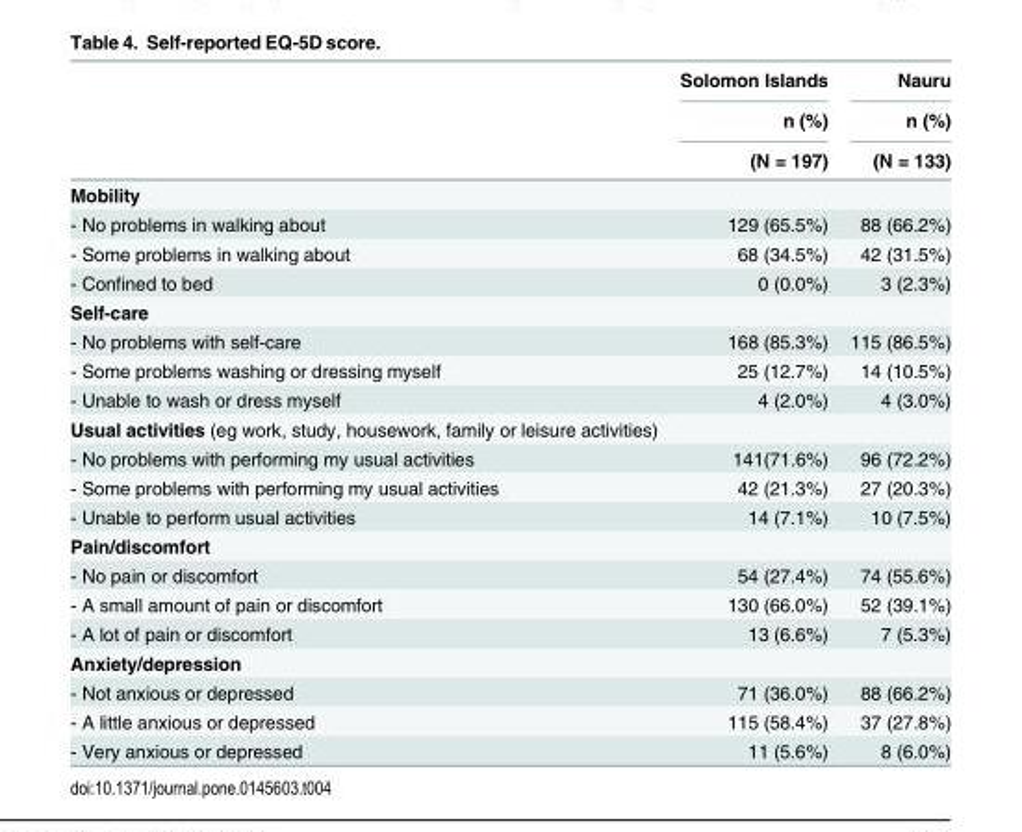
<table><thead><tr><td rowspan="3"></td><td rowspan="3">Solomon Islands n (%) (N = 197)</td><td rowspan="3">Nauru n (%) (N = 133)</td></tr><tr></tr><tr></tr></thead><tbody><tr><td colspan="3">Mobility</td></tr><tr><td>- No problems in walking about</td><td>129 (65.5%)</td><td>88 (66.2%)</td></tr><tr><td>- Some problems in walking about</td><td>68 (34.5%)</td><td>42 (31.5%)</td></tr><tr><td>- Confined to bed</td><td>0 (0.0%)</td><td>3 (2.3%)</td></tr><tr><td colspan="3">Self-care</td></tr><tr><td>- No problems with self-care</td><td>168 (85.3%)</td><td>115 (86.5%)</td></tr><tr><td>- Some problems washing or dressing myself</td><td>25 (12.7%)</td><td>14 (10.5%)</td></tr><tr><td>- Unable to wash or dress myself</td><td>4 (2.0%)</td><td>4 (3.0%)</td></tr><tr><td colspan="3">Usual activities (eg work, study, housework, family or leisure activities)</td></tr><tr><td>- No problems with performing my usual activities</td><td>141(71.6%)</td><td>96 (72.2%)</td></tr><tr><td>- Some problems with performing my usual activities</td><td>42 (21.3%)</td><td>27 (20.3%)</td></tr><tr><td>- Unable to perform usual activities</td><td>14 (7.1%)</td><td>10 (7.5%)</td></tr><tr><td colspan="3">Pain/discomfort</td></tr><tr><td>- No pain or discomfort</td><td>54 (27.4%)</td><td>74 (55.6%)</td></tr><tr><td>- A small amount of pain or discomfort</td><td>130 (66.0%)</td><td>52 (39.1%)</td></tr><tr><td>- A lot of pain or discomfort</td><td>13 (6.6%)</td><td>7 (5.3%)</td></tr><tr><td colspan="3">Anxiety/depression</td></tr><tr><td>- Not anxious or depressed</td><td>71 (36.0%)</td><td>88 (66.2%)</td></tr><tr><td>- A little anxious or depressed</td><td>115 (58.4%)</td><td>37 (27.8%)</td></tr><tr><td>- Very anxious or depressed</td><td>11 (5.6%)</td><td>8 (6.0%)</td></tr></tbody></table>